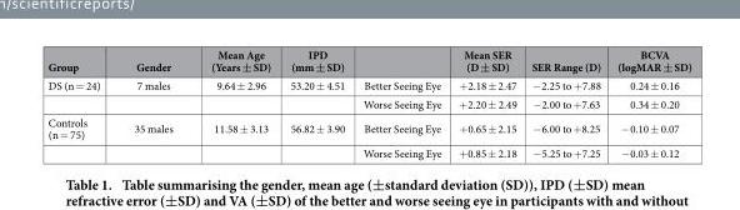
<table><thead><tr><td>Group</td><td>Gender</td><td>Mean Age (Years ± SD)</td><td>IPD (mm ± SD)</td><td></td><td>Mean SER (D ± SD)</td><td>SER Range (D)</td><td>BCVA (logMAR ± SD)</td></tr></thead><tbody><tr><td rowspan="2">DS (n = 24)</td><td>7 males</td><td>9.64 ± 2.96</td><td>53.20 ± 4.51</td><td>Better Seeing Eye</td><td>+2.18 ± 2.47</td><td>− 2.25 to +7.88</td><td>0.24 ± 0.16</td></tr><tr><td></td><td></td><td></td><td>Worse Seeing Eye</td><td>+2.20 ± 2.49</td><td>−2.00 to +7.63</td><td>0.34 ± 0.20</td></tr><tr><td rowspan="2">Controls (n = 75)</td><td>35 males</td><td>11.58 ± 3.13</td><td>56.82 ± 3.90</td><td>Better Seeing Eye</td><td>+0.65 ± 2.15</td><td>−6.00 to +8.25</td><td>− 0.10 ± 0.07</td></tr><tr><td></td><td></td><td></td><td>Worse Seeing Eye</td><td>+0.85 ± 2.18</td><td>− 5.25 to +7.25</td><td>− 0.03 ± 0.12</td></tr></tbody></table>